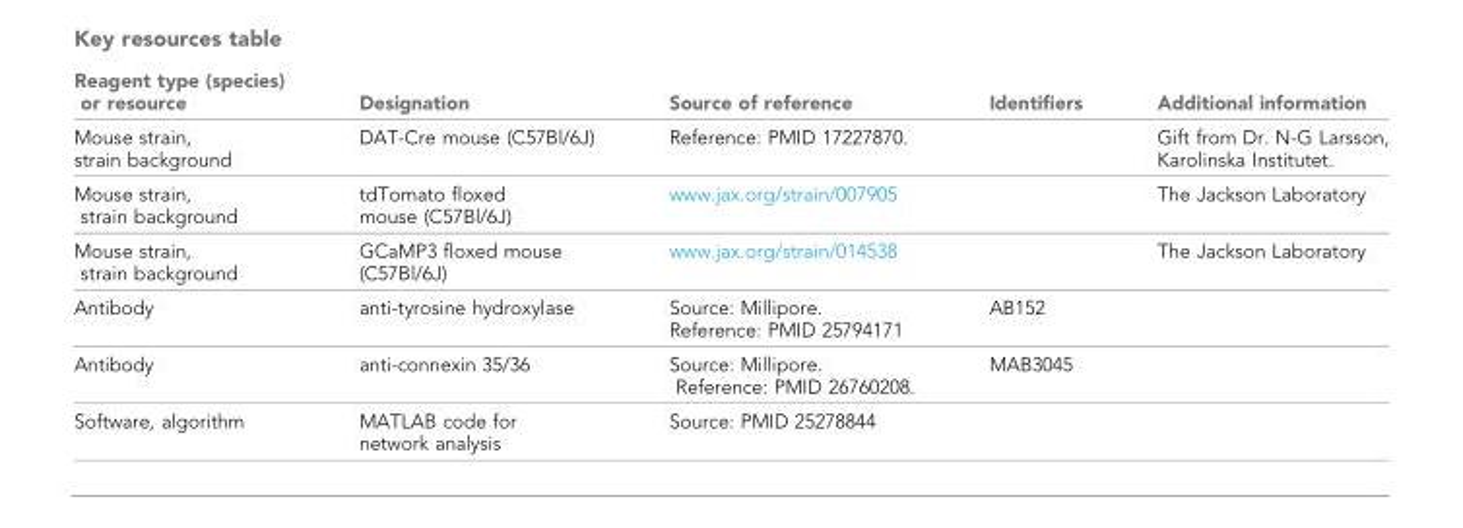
<table><thead><tr><td>Reagent type (species) or resource</td><td>Designation</td><td>Source of reference</td><td>Identifiers</td><td>Additional information</td></tr></thead><tbody><tr><td>Mouse strain, strain background</td><td>DAT-Cre mouse (C57Bl/6J)</td><td>Reference: PMID 17227870.</td><td></td><td>Gift from Dr. N-G Larsson, Karolinska Institutet.</td></tr><tr><td>Mouse strain, strain background</td><td>tdTomato floxed mouse (C57Bl/6J)</td><td>www.jax.org/strain/007905</td><td></td><td>The Jackson Laboratory</td></tr><tr><td>Mouse strain, strain background</td><td>GCaMP3 floxed mouse (C57Bl/6J)</td><td>www.jax.org/strain/014538</td><td></td><td>The Jackson Laboratory</td></tr><tr><td>Antibody</td><td>anti-tyrosine hydroxylase</td><td>Source: Millipore. Reference: PMID 25794171</td><td>AB152</td><td></td></tr><tr><td>Antibody</td><td>anti-connexin 35/36</td><td>Source: Millipore. Reference: PMID 26760208.</td><td>MAB3045</td><td></td></tr><tr><td>Software, algorithm</td><td>MATLAB code for network analysis</td><td>Source: PMID 25278844</td><td></td><td></td></tr></tbody></table>